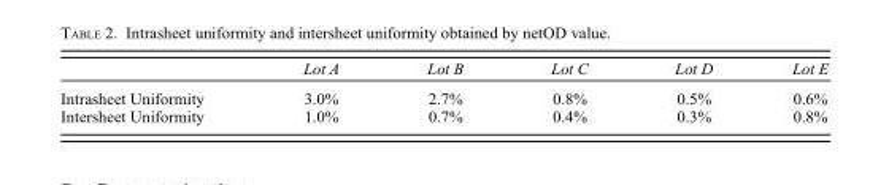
<table><thead><tr><td></td><td>Lot A</td><td>Lot B</td><td>Lot C</td><td>Lot D</td><td>Lot E</td></tr></thead><tbody><tr><td>Intrasheet Uniformity</td><td>3.0%</td><td>2.7%</td><td>0.8%</td><td>0.5%</td><td>0.6%</td></tr><tr><td>Intersheet Uniformity</td><td>1.0%</td><td>0.7%</td><td>0.4%</td><td>0.3%</td><td>0.8%</td></tr></tbody></table>